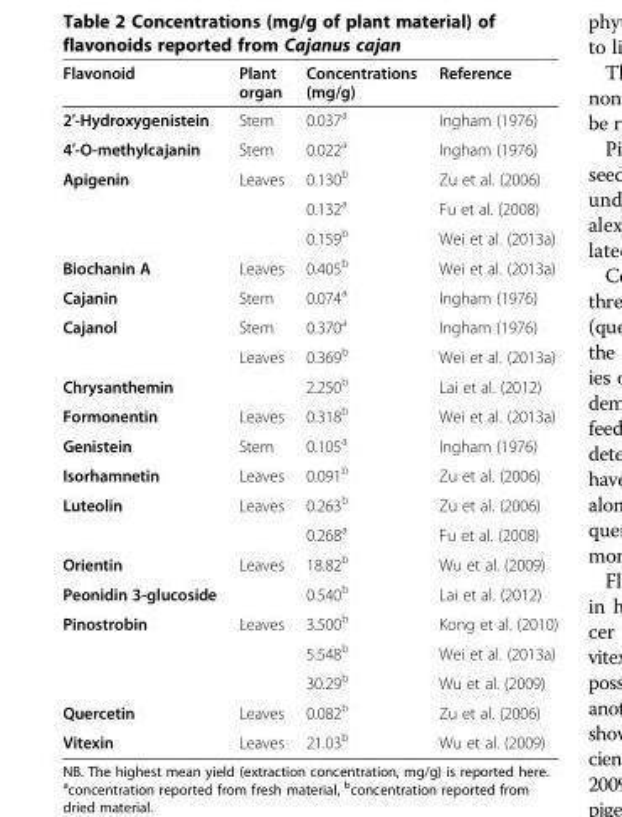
<table><thead><tr><td>Flavonoid</td><td>Plant organ</td><td>Concentrations (mg/g)</td><td>Reference</td></tr></thead><tbody><tr><td>2′-Hydroxygenistein</td><td>Stem</td><td>0.037<sup>a</sup></td><td>Ingham (1976)</td></tr><tr><td>4′-O-methylcajanin</td><td>Stem</td><td>0.022<sup>a</sup></td><td>Ingham (1976)</td></tr><tr><td rowspan="3">Apigenin</td><td rowspan="3">Leaves</td><td>0.130<sup>b</sup></td><td>Zu et al. (2006)</td></tr><tr><td>0.132<sup>a</sup></td><td>Fu et al. (2008)</td></tr><tr><td>0.159<sup>b</sup></td><td>Wei et al. (2013a)</td></tr><tr><td>Biochanin A</td><td>Leaves</td><td>0.405<sup>b</sup></td><td>Wei et al. (2013a)</td></tr><tr><td>Cajanin</td><td>Stem</td><td>0.074<sup>a</sup></td><td>Ingham (1976)</td></tr><tr><td rowspan="2">Cajanol</td><td>Stem</td><td>0.370<sup>a</sup></td><td>Ingham (1976)</td></tr><tr><td>Leaves</td><td>0.369<sup>b</sup></td><td>Wei et al. (2013a)</td></tr><tr><td>Chrysanthemin</td><td></td><td>2.250<sup>b</sup></td><td>Lai et al. (2012)</td></tr><tr><td>Formonentin</td><td>Leaves</td><td>0.318<sup>b</sup></td><td>Wei et al. (2013a)</td></tr><tr><td>Genistein</td><td>Stem</td><td>0.105<sup>a</sup></td><td>Ingham (1976)</td></tr><tr><td>Isorhamnetin</td><td>Leaves</td><td>0.091<sup>b</sup></td><td>Zu et al. (2006)</td></tr><tr><td rowspan="2">Luteolin</td><td rowspan="2">Leaves</td><td>0.263<sup>b</sup></td><td>Zu et al. (2006)</td></tr><tr><td>0.268<sup>a</sup></td><td>Fu et al. (2008)</td></tr><tr><td>Orientin</td><td>Leaves</td><td>18.82<sup>b</sup></td><td>Wu et al. (2009)</td></tr><tr><td>Peonidin 3-glucoside</td><td></td><td>0.540<sup>b</sup></td><td>Lai et al. (2012)</td></tr><tr><td rowspan="3">Pinostrobin</td><td rowspan="3">Leaves</td><td>3.500<sup>b</sup></td><td>Kong et al. (2010)</td></tr><tr><td>5.548<sup>b</sup></td><td>Wei et al. (2013a)</td></tr><tr><td>30.29<sup>b</sup></td><td>Wu et al. (2009)</td></tr><tr><td>Quercetin</td><td>Leaves</td><td>0.082<sup>b</sup></td><td>Zu et al. (2006)</td></tr><tr><td>Vitexin</td><td>Leaves</td><td>21.03<sup>b</sup></td><td>Wu et al. (2009)</td></tr></tbody></table>